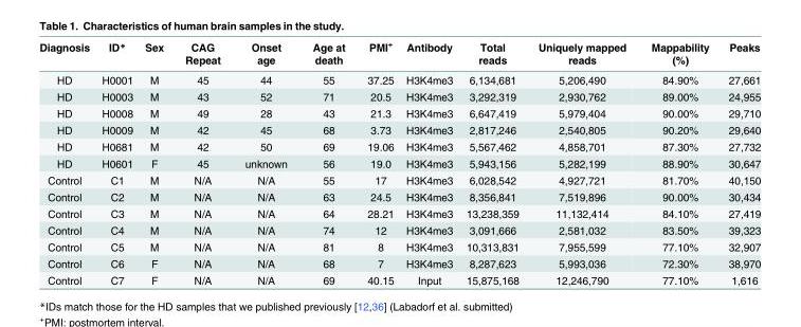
<table><thead><tr><td>Diagnosis</td><td>ID*</td><td>Sex</td><td>CAG Repeat</td><td>Onset age</td><td>Age at death</td><td>PMI<sup>+</sup></td><td>Antibody</td><td>Total reads</td><td>Uniquely mapped reads</td><td>Mappability (%)</td><td>Peaks</td></tr></thead><tbody><tr><td>HD</td><td>H0001</td><td>M</td><td>45</td><td>44</td><td>55</td><td>37.25</td><td>H3K4me3</td><td>6,134,681</td><td>5,206,490</td><td>84.90%</td><td>27,661</td></tr><tr><td>HD</td><td>H0003</td><td>M</td><td>43</td><td>52</td><td>71</td><td>20.5</td><td>H3K4me3</td><td>3,292,319</td><td>2,930,762</td><td>89.00%</td><td>24,955</td></tr><tr><td>HD</td><td>H0008</td><td>M</td><td>49</td><td>28</td><td>43</td><td>21.3</td><td>H3K4me3</td><td>6,647,419</td><td>5,979,404</td><td>90.00%</td><td>29,710</td></tr><tr><td>HD</td><td>H0009</td><td>M</td><td>42</td><td>45</td><td>68</td><td>3.73</td><td>H3K4me3</td><td>2,817,246</td><td>2,540,805</td><td>90.20%</td><td>29,640</td></tr><tr><td>HD</td><td>H0681</td><td>M</td><td>42</td><td>50</td><td>69</td><td>19.06</td><td>H3K4me3</td><td>5,567,462</td><td>4,858,701</td><td>87.30%</td><td>27,732</td></tr><tr><td>HD</td><td>H0601</td><td>F</td><td>45</td><td>unknown</td><td>56</td><td>19.0</td><td>H3K4me3</td><td>5,943,156</td><td>5,282,199</td><td>88.90%</td><td>30,647</td></tr><tr><td>Control</td><td>C1</td><td>M</td><td>N/A</td><td>N/A</td><td>55</td><td>17</td><td>H3K4me3</td><td>6,028,542</td><td>4,927,721</td><td>81.70%</td><td>40,150</td></tr><tr><td>Control</td><td>C2</td><td>M</td><td>N/A</td><td>N/A</td><td>63</td><td>24.5</td><td>H3K4me3</td><td>8,356,841</td><td>7,519,896</td><td>90.00%</td><td>30,434</td></tr><tr><td>Control</td><td>C3</td><td>M</td><td>N/A</td><td>N/A</td><td>64</td><td>28.21</td><td>H3K4me3</td><td>13,238,359</td><td>11,132,414</td><td>84.10%</td><td>27,419</td></tr><tr><td>Control</td><td>C4</td><td>M</td><td>N/A</td><td>N/A</td><td>74</td><td>12</td><td>H3K4me3</td><td>3,091,666</td><td>2,581,032</td><td>83.50%</td><td>39,323</td></tr><tr><td>Control</td><td>C5</td><td>M</td><td>N/A</td><td>N/A</td><td>81</td><td>8</td><td>H3K4me3</td><td>10,313,831</td><td>7,955,599</td><td>77.10%</td><td>32,907</td></tr><tr><td>Control</td><td>C6</td><td>F</td><td>N/A</td><td>N/A</td><td>68</td><td>7</td><td>H3K4me3</td><td>8,287,623</td><td>5,993,036</td><td>72.30%</td><td>38,970</td></tr><tr><td>Control</td><td>C7</td><td>F</td><td>N/A</td><td>N/A</td><td>69</td><td>40.15</td><td>Input</td><td>15,875,168</td><td>12,246,790</td><td>77.10%</td><td>1,616</td></tr></tbody></table>